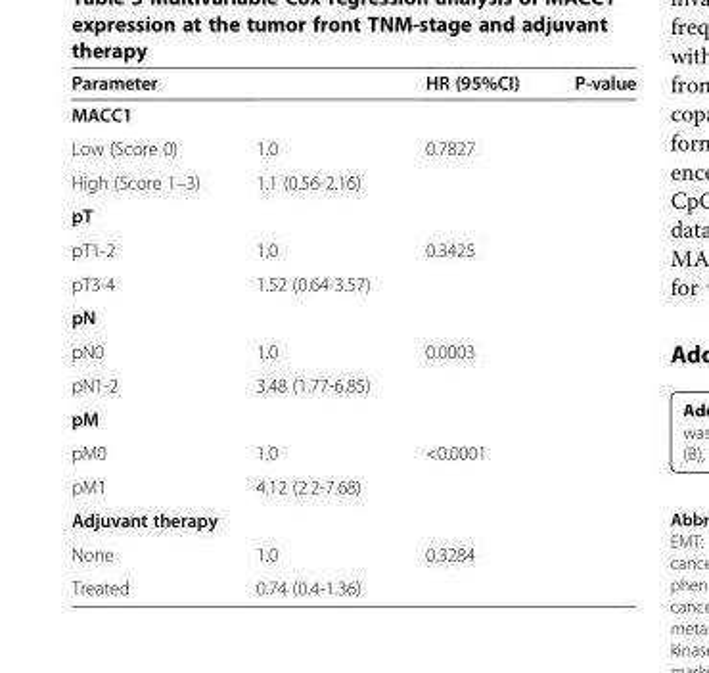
<table><thead><tr><td>Parameter</td><td></td><td>HR (95%CI)</td><td>P-value</td></tr></thead><tbody><tr><td colspan="4">MACC1</td></tr><tr><td>Low (Score 0)</td><td>1.0</td><td>0.7827</td><td></td></tr><tr><td>High (Score 1–3)</td><td>1.1 (0.56-2.16)</td><td></td><td></td></tr><tr><td colspan="4">pT</td></tr><tr><td>pT1-2</td><td>1.0</td><td>0.3425</td><td></td></tr><tr><td>pT3-4</td><td>1.52 (0.64-3.57)</td><td></td><td></td></tr><tr><td colspan="4">pN</td></tr><tr><td>pN0</td><td>1.0</td><td>0.0003</td><td></td></tr><tr><td>pN1-2</td><td>3.48 (1.77-6.85)</td><td></td><td></td></tr><tr><td colspan="4">pM</td></tr><tr><td>pM0</td><td>1.0</td><td>&lt;0.0001</td><td></td></tr><tr><td>pM1</td><td>4.12 (2.2-7.68)</td><td></td><td></td></tr><tr><td colspan="4">Adjuvant therapy</td></tr><tr><td>None</td><td>1.0</td><td>0.3284</td><td></td></tr><tr><td>Treated</td><td>0.74 (0.4-1.36)</td><td></td><td></td></tr></tbody></table>